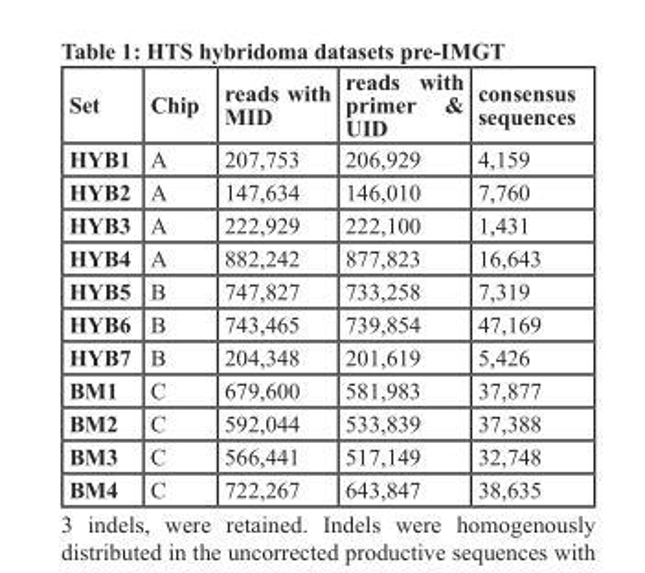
<table><thead><tr><td>Set</td><td>Chip</td><td>reads with MID</td><td>reads with primer &amp; UID</td><td>consensus sequences</td></tr></thead><tbody><tr><td>HYB1</td><td>A</td><td>207,753</td><td>206,929</td><td>4,159</td></tr><tr><td>HYB2</td><td>A</td><td>147,634</td><td>146,010</td><td>7,760</td></tr><tr><td>HYB3</td><td>A</td><td>222,929</td><td>222,100</td><td>1,431</td></tr><tr><td>HYB4</td><td>A</td><td>882,242</td><td>877,823</td><td>16,643</td></tr><tr><td>HYB5</td><td>B</td><td>747,827</td><td>733,258</td><td>7,319</td></tr><tr><td>HYB6</td><td>B</td><td>743,465</td><td>739,854</td><td>47,169</td></tr><tr><td>HYB7</td><td>B</td><td>204,348</td><td>201,619</td><td>5,426</td></tr><tr><td>BM1</td><td>C</td><td>679,600</td><td>581,983</td><td>37,877</td></tr><tr><td>BM2</td><td>C</td><td>592,044</td><td>533,839</td><td>37,388</td></tr><tr><td>BM3</td><td>C</td><td>566,441</td><td>517,149</td><td>32,748</td></tr><tr><td>BM4</td><td>C</td><td>722,267</td><td>643,847</td><td>38,635</td></tr></tbody></table>